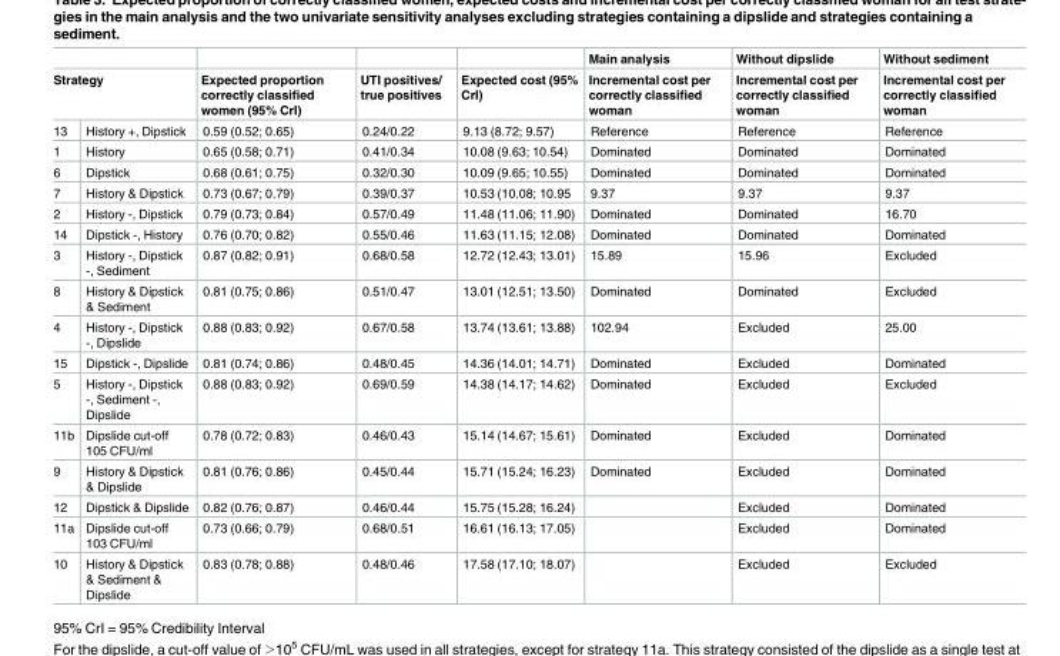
<table><thead><tr><td></td><td></td><td rowspan="2">Expected proportion correctly classified women (95% CrI)</td><td rowspan="2">UTI positives/ true positives</td><td rowspan="2">Expected cost (95% CrI)</td><td rowspan="2">Main analysis Incremental cost per correctly classified woman</td><td rowspan="2">Without dipslide Incremental cost per correctly classified woman</td><td rowspan="2">Without sediment Incremental cost per correctly classified woman</td></tr><tr><td colspan="2">Strategy</td></tr></thead><tbody><tr><td>13</td><td>History +, Dipstick</td><td>0.59 (0.52; 0.65)</td><td>0.24/0.22</td><td>9.13 (8.72; 9.57)</td><td>Reference</td><td>Reference</td><td>Reference</td></tr><tr><td>1</td><td>History</td><td>0.65 (0.58; 0.71)</td><td>0.41/0.34</td><td>10.08 (9.63; 10.54)</td><td>Dominated</td><td>Dominated</td><td>Dominated</td></tr><tr><td>6</td><td>Dipstick</td><td>0.68 (0.61; 0.75)</td><td>0.32/0.30</td><td>10.09 (9.65; 10.55)</td><td>Dominated</td><td>Dominated</td><td>Dominated</td></tr><tr><td>7</td><td>History &amp; Dipstick</td><td>0.73 (0.67; 0.79)</td><td>0.39/0.37</td><td>10.53 (10.08; 10.95</td><td>9.37</td><td>9.37</td><td>9.37</td></tr><tr><td>2</td><td>History -, Dipstick</td><td>0.79 (0.73; 0.84)</td><td>0.57/0.49</td><td>11.48 (11.06; 11.90)</td><td>Dominated</td><td>Dominated</td><td>16.70</td></tr><tr><td>14</td><td>Dipstick -, History</td><td>0.76 (0.70; 0.82)</td><td>0.55/0.46</td><td>11.63 (11.15; 12.08)</td><td>Dominated</td><td>Dominated</td><td>Dominated</td></tr><tr><td>3</td><td>History -, Dipstick -, Sediment</td><td>0.87 (0.82; 0.91)</td><td>0.68/0.58</td><td>12.72 (12.43; 13.01)</td><td>15.89</td><td>15.96</td><td>Excluded</td></tr><tr><td>8</td><td>History &amp; Dipstick &amp; Sediment</td><td>0.81 (0.75; 0.86)</td><td>0.51/0.47</td><td>13.01 (12.51; 13.50)</td><td>Dominated</td><td>Dominated</td><td>Excluded</td></tr><tr><td>4</td><td>History -, Dipstick -, Dipslide</td><td>0.88 (0.83; 0.92)</td><td>0.67/0.58</td><td>13.74 (13.61; 13.88)</td><td>102.94</td><td>Excluded</td><td>25.00</td></tr><tr><td>15</td><td>Dipstick -, Dipslide</td><td>0.81 (0.74; 0.86)</td><td>0.48/0.45</td><td>14.36 (14.01; 14.71)</td><td>Dominated</td><td>Excluded</td><td>Dominated</td></tr><tr><td>5</td><td>History -, Dipstick -, Sediment -, Dipslide</td><td>0.88 (0.83; 0.92)</td><td>0.69/0.59</td><td>14.38 (14.17; 14.62)</td><td>Dominated</td><td>Excluded</td><td>Excluded</td></tr><tr><td>11b</td><td>Dipslide cut-off 105 CFU/ml</td><td>0.78 (0.72; 0.83)</td><td>0.46/0.43</td><td>15.14 (14.67; 15.61)</td><td>Dominated</td><td>Excluded</td><td>Dominated</td></tr><tr><td>9</td><td>History &amp; Dipstick &amp; Dipslide</td><td>0.81 (0.76; 0.86)</td><td>0.45/0.44</td><td>15.71 (15.24; 16.23)</td><td>Dominated</td><td>Excluded</td><td>Dominated</td></tr><tr><td>12</td><td>Dipstick &amp; Dipslide</td><td>0.82 (0.76; 0.87)</td><td>0.46/0.44</td><td>15.75 (15.28; 16.24)</td><td></td><td>Excluded</td><td>Dominated</td></tr><tr><td>11a</td><td>Dipslide cut-off 103 CFU/ml</td><td>0.73 (0.66; 0.79)</td><td>0.68/0.51</td><td>16.61 (16.13; 17.05)</td><td></td><td>Excluded</td><td>Dominated</td></tr><tr><td>10</td><td>History &amp; Dipstick &amp; Sediment &amp; Dipslide</td><td>0.83 (0.78; 0.88)</td><td>0.48/0.46</td><td>17.58 (17.10; 18.07)</td><td></td><td>Excluded</td><td>Excluded</td></tr></tbody></table>